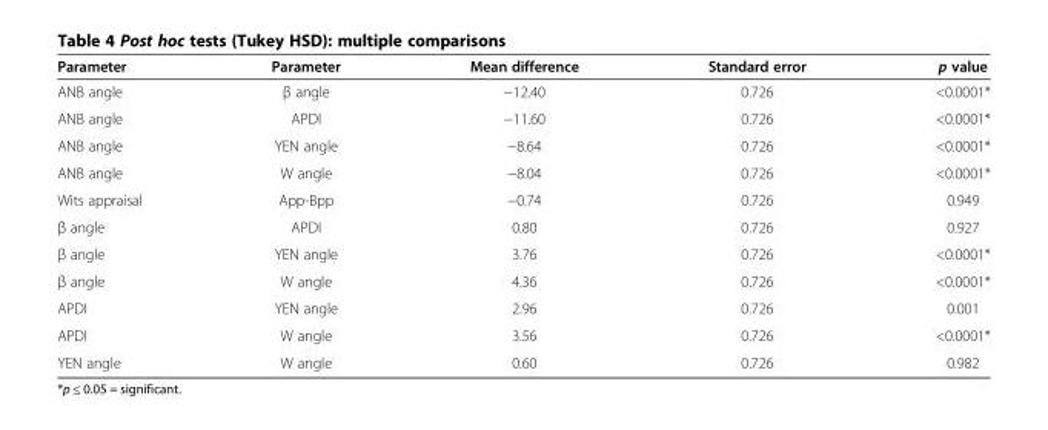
<table><thead><tr><td>Parameter</td><td>Parameter</td><td>Mean difference</td><td>Standard error</td><td>p value</td></tr></thead><tbody><tr><td>ANB angle</td><td>β angle</td><td>−12.40</td><td>0.726</td><td>&lt;0.0001*</td></tr><tr><td>ANB angle</td><td>APDI</td><td>−11.60</td><td>0.726</td><td>&lt;0.0001*</td></tr><tr><td>ANB angle</td><td>YEN angle</td><td>−8.64</td><td>0.726</td><td>&lt;0.0001*</td></tr><tr><td>ANB angle</td><td>W angle</td><td>−8.04</td><td>0.726</td><td>&lt;0.0001*</td></tr><tr><td>Wits appraisal</td><td>App-Bpp</td><td>−0.74</td><td>0.726</td><td>0.949</td></tr><tr><td>β angle</td><td>APDI</td><td>0.80</td><td>0.726</td><td>0.927</td></tr><tr><td>β angle</td><td>YEN angle</td><td>3.76</td><td>0.726</td><td>&lt;0.0001*</td></tr><tr><td>β angle</td><td>W angle</td><td>4.36</td><td>0.726</td><td>&lt;0.0001*</td></tr><tr><td>APDI</td><td>YEN angle</td><td>2.96</td><td>0.726</td><td>0.001</td></tr><tr><td>APDI</td><td>W angle</td><td>3.56</td><td>0.726</td><td>&lt;0.0001*</td></tr><tr><td>YEN angle</td><td>W angle</td><td>0.60</td><td>0.726</td><td>0.982</td></tr></tbody></table>